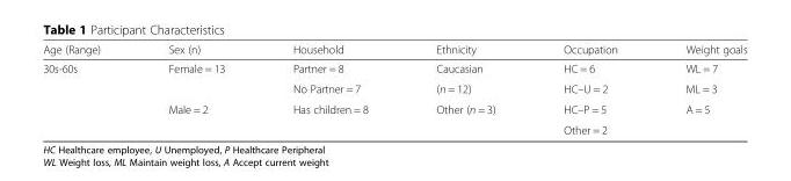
<table><thead><tr><td>Age (Range)</td><td>Sex (n)</td><td>Household</td><td>Ethnicity</td><td>Occupation</td><td>Weight goals</td></tr></thead><tbody><tr><td rowspan="4">30s-60s</td><td>Female = 13</td><td>Partner = 8</td><td>Caucasian</td><td>HC = 6</td><td>WL = 7</td></tr><tr><td></td><td>No Partner = 7</td><td>(n = 12)</td><td>HC–U = 2</td><td>ML = 3</td></tr><tr><td rowspan="2">Male = 2</td><td rowspan="2">Has children = 8</td><td rowspan="2">Other (n = 3)</td><td>HC–P = 5</td><td rowspan="2">A = 5</td></tr><tr><td>Other = 2</td></tr></tbody></table>